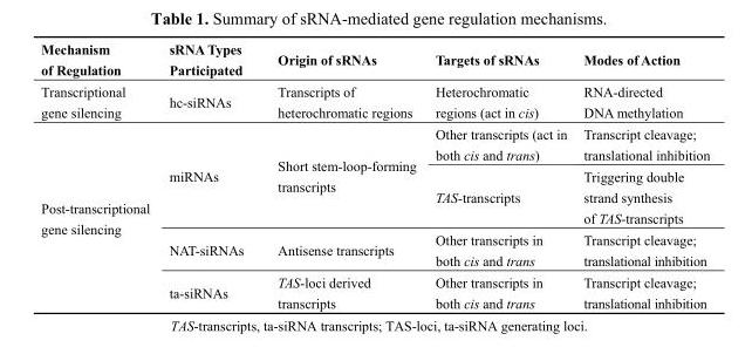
<table><thead><tr><td>Mechanism of Regulation</td><td>sRNA Types Participated</td><td>Origin of sRNAs</td><td>Targets of sRNAs</td><td>Modes of Action</td></tr></thead><tbody><tr><td>Transcriptional gene silencing</td><td>hc-siRNAs</td><td>Transcripts of heterochromatic regions</td><td>Heterochromatic regions (act in cis)</td><td>RNA-directed DNA methylation</td></tr><tr><td rowspan="4">Post-transcriptional gene silencing</td><td rowspan="2">miRNAs</td><td rowspan="2">Short stem-loop-forming transcripts</td><td>Other transcripts (act in both cis and trans)</td><td>Transcript cleavage; translational inhibition</td></tr><tr><td>TAS-transcripts</td><td>Triggering double strand synthesis of TAS-transcripts</td></tr><tr><td>NAT-siRNAs</td><td>Antisense transcripts</td><td>Other transcripts in both cis and trans</td><td>Transcript cleavage; translational inhibition</td></tr><tr><td>ta-siRNAs</td><td>TAS-loci derived transcripts</td><td>Other transcripts in both cis and trans</td><td>Transcript cleavage; translational inhibition</td></tr></tbody></table>